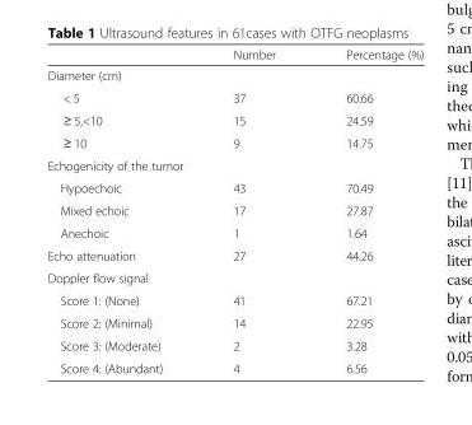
<table><thead><tr><td></td><td>Number</td><td>Percentage (%)</td></tr></thead><tbody><tr><td colspan="3">Diameter (cm)</td></tr><tr><td>&lt; 5</td><td>37</td><td>60.66</td></tr><tr><td>≥ 5,&lt;10</td><td>15</td><td>24.59</td></tr><tr><td>≥ 10</td><td>9</td><td>14.75</td></tr><tr><td colspan="3">Echogenicity of the tumor</td></tr><tr><td>Hypoechoic</td><td>43</td><td>70.49</td></tr><tr><td>Mixed echoic</td><td>17</td><td>27.87</td></tr><tr><td>Anechoic</td><td>1</td><td>1.64</td></tr><tr><td>Echo attenuation</td><td>27</td><td>44.26</td></tr><tr><td colspan="3">Doppler flow signal</td></tr><tr><td>Score 1: (None)</td><td>41</td><td>67.21</td></tr><tr><td>Score 2: (Minimal)</td><td>14</td><td>22.95</td></tr><tr><td>Score 3: (Moderate)</td><td>2</td><td>3.28</td></tr><tr><td>Score 4: (Abundant)</td><td>4</td><td>6.56</td></tr></tbody></table>